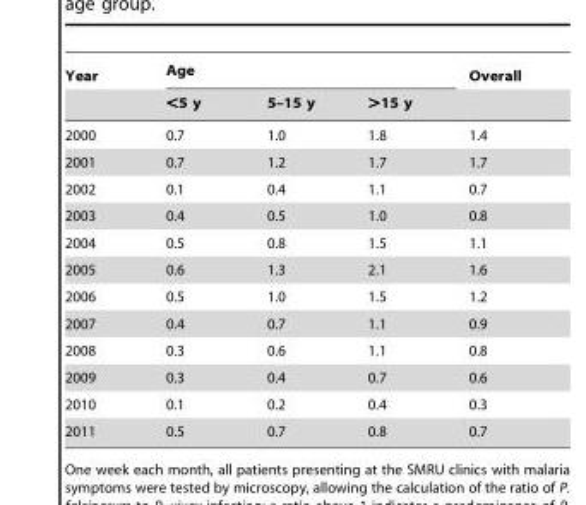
<table><thead><tr><td rowspan="2">Year</td><td colspan="3">Age</td><td rowspan="2">Overall</td></tr><tr><td>&lt;5 y</td><td>5–15 y</td><td>&gt;15 y</td></tr></thead><tbody><tr><td>2000</td><td>0.7</td><td>1.0</td><td>1.8</td><td>1.4</td></tr><tr><td>2001</td><td>0.7</td><td>1.2</td><td>1.7</td><td>1.7</td></tr><tr><td>2002</td><td>0.1</td><td>0.4</td><td>1.1</td><td>0.7</td></tr><tr><td>2003</td><td>0.4</td><td>0.5</td><td>1.0</td><td>0.8</td></tr><tr><td>2004</td><td>0.5</td><td>0.8</td><td>1.5</td><td>1.1</td></tr><tr><td>2005</td><td>0.6</td><td>1.3</td><td>2.1</td><td>1.6</td></tr><tr><td>2006</td><td>0.5</td><td>1.0</td><td>1.5</td><td>1.2</td></tr><tr><td>2007</td><td>0.4</td><td>0.7</td><td>1.1</td><td>0.9</td></tr><tr><td>2008</td><td>0.3</td><td>0.6</td><td>1.1</td><td>0.8</td></tr><tr><td>2009</td><td>0.3</td><td>0.4</td><td>0.7</td><td>0.6</td></tr><tr><td>2010</td><td>0.1</td><td>0.2</td><td>0.4</td><td>0.3</td></tr><tr><td>2011</td><td>0.5</td><td>0.7</td><td>0.8</td><td>0.7</td></tr></tbody></table>